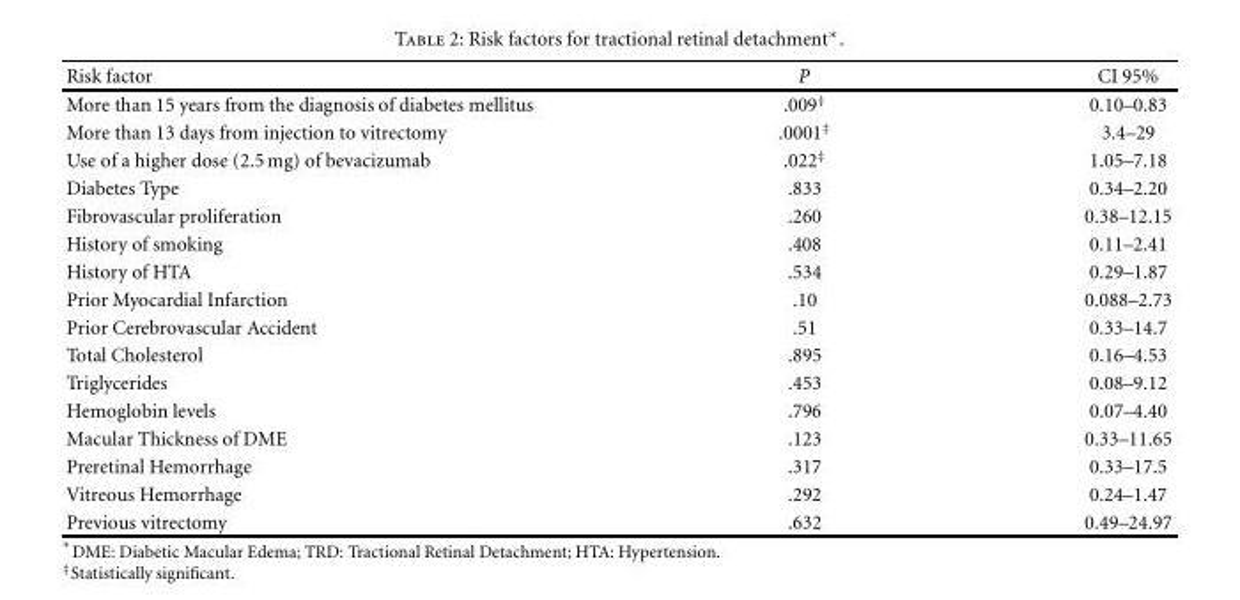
<table><thead><tr><td>Risk factor</td><td>P</td><td>CI 95%</td></tr></thead><tbody><tr><td>More than 15 years from the diagnosis of diabetes mellitus</td><td>.009<sup>‡</sup></td><td>0.10–0.83</td></tr><tr><td>More than 13 days from injection to vitrectomy</td><td>.0001<sup>‡</sup></td><td>3.4–29</td></tr><tr><td>Use of a higher dose (2.5mg) of bevacizumab</td><td>.022<sup>‡</sup></td><td>1.05–7.18</td></tr><tr><td>Diabetes Type</td><td>.833</td><td>0.34–2.20</td></tr><tr><td>Fibrovascular proliferation</td><td>.260</td><td>0.38–12.15</td></tr><tr><td>History of smoking</td><td>.408</td><td>0.11–2.41</td></tr><tr><td>History of HTA</td><td>.534</td><td>0.29–1.87</td></tr><tr><td>Prior Myocardial Infarction</td><td>.10</td><td>0.088–2.73</td></tr><tr><td>Prior Cerebrovascular Accident</td><td>.51</td><td>0.33–14.7</td></tr><tr><td>Total Cholesterol</td><td>.895</td><td>0.16–4.53</td></tr><tr><td>Triglycerides</td><td>.453</td><td>0.08–9.12</td></tr><tr><td>Hemoglobin levels</td><td>.796</td><td>0.07–4.40</td></tr><tr><td>Macular Thickness of DME</td><td>.123</td><td>0.33–11.65</td></tr><tr><td>Preretinal Hemorrhage</td><td>.317</td><td>0.33–17.5</td></tr><tr><td>Vitreous Hemorrhage</td><td>.292</td><td>0.24–1.47</td></tr><tr><td>Previous vitrectomy</td><td>.632</td><td>0.49–24.97</td></tr></tbody></table>